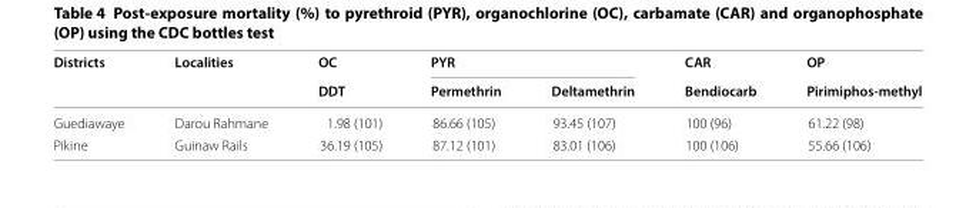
<table><thead><tr><td rowspan="2">Districts</td><td rowspan="2">Localities</td><td rowspan="2">OC DDT</td><td colspan="2">PYR</td><td rowspan="2">CAR Bendiocarb</td><td rowspan="2">OP Pirimiphos-methyl</td></tr><tr><td>Permethrin</td><td>Deltamethrin</td></tr></thead><tbody><tr><td>Guediawaye</td><td>Darou Rahmane</td><td>1.98 (101)</td><td>86.66 (105)</td><td>93.45 (107)</td><td>100 (96)</td><td>61.22 (98)</td></tr><tr><td>Pikine</td><td>Guinaw Rails</td><td>36.19 (105)</td><td>87.12 (101)</td><td>83.01 (106)</td><td>100 (106)</td><td>55.66 (106)</td></tr></tbody></table>